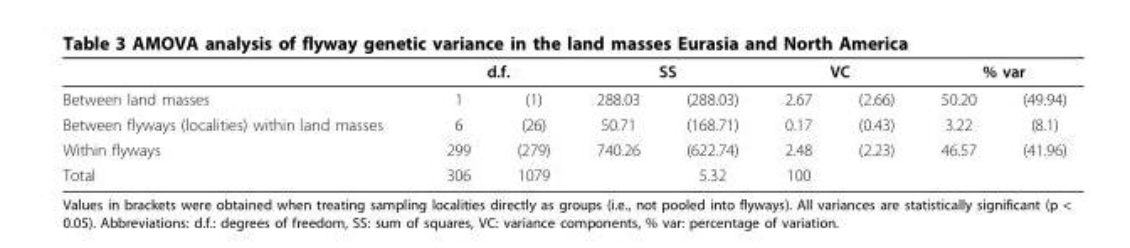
<table><thead><tr><td rowspan="2">Between land masses</td><td colspan="2">d.f.</td><td colspan="2">SS</td><td colspan="2">VC</td><td colspan="2">% var</td></tr><tr><td>1</td><td>(1)</td><td>288.03</td><td>(288.03)</td><td>2.67</td><td>(2.66)</td><td>50.20</td><td>(49.94)</td></tr></thead><tbody><tr><td>Between flyways (localities) within land masses</td><td>6</td><td>(26)</td><td>50.71</td><td>(168.71)</td><td>0.17</td><td>(0.43)</td><td>3.22</td><td>(8.1)</td></tr><tr><td>Within flyways</td><td>299</td><td>(279)</td><td>740.26</td><td>(622.74)</td><td>2.48</td><td>(2.23)</td><td>46.57</td><td>(41.96)</td></tr><tr><td>Total</td><td>306</td><td>1079</td><td></td><td>5.32</td><td>100</td><td></td><td></td><td></td></tr></tbody></table>